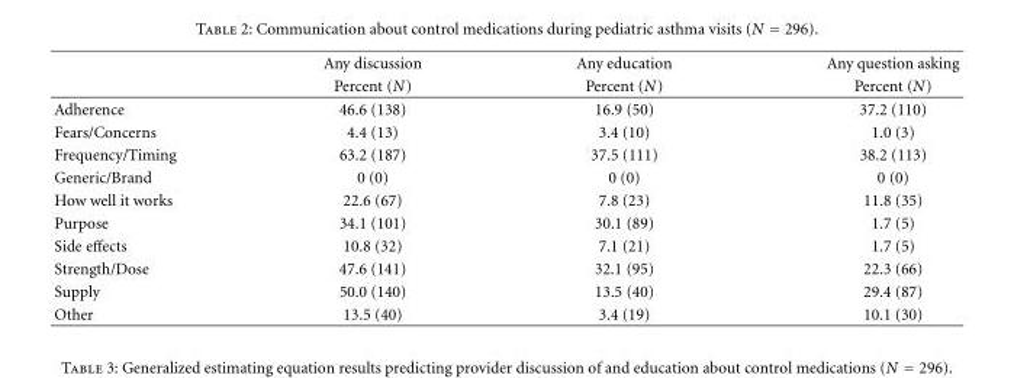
<table><thead><tr><td rowspan="2"></td><td rowspan="2">Any discussion Percent (N)</td><td rowspan="2">Any education Percent (N)</td><td rowspan="2">Any question asking Percent (N)</td></tr><tr></tr></thead><tbody><tr><td>Adherence</td><td>46.6 (138)</td><td>16.9 (50)</td><td>37.2 (110)</td></tr><tr><td>Fears/Concerns</td><td>4.4 (13)</td><td>3.4 (10)</td><td>1.0 (3)</td></tr><tr><td>Frequency/Timing</td><td>63.2 (187)</td><td>37.5 (111)</td><td>38.2 (113)</td></tr><tr><td>Generic/Brand</td><td>0 (0)</td><td>0 (0)</td><td>0 (0)</td></tr><tr><td>How well it works</td><td>22.6 (67)</td><td>7.8 (23)</td><td>11.8 (35)</td></tr><tr><td>Purpose</td><td>34.1 (101)</td><td>30.1 (89)</td><td>1.7 (5)</td></tr><tr><td>Side effects</td><td>10.8 (32)</td><td>7.1 (21)</td><td>1.7 (5)</td></tr><tr><td>Strength/Dose</td><td>47.6 (141)</td><td>32.1 (95)</td><td>22.3 (66)</td></tr><tr><td>Supply</td><td>50.0 (140)</td><td>13.5 (40)</td><td>29.4 (87)</td></tr><tr><td>Other</td><td>13.5 (40)</td><td>3.4 (19)</td><td>10.1 (30)</td></tr></tbody></table>